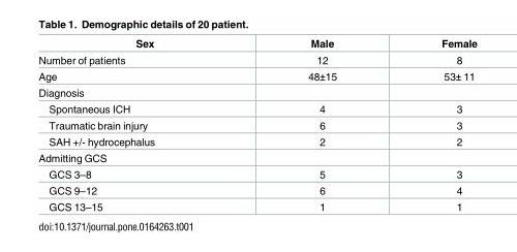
<table><thead><tr><td>Sex</td><td>Male</td><td>Female</td></tr></thead><tbody><tr><td>Number of patients</td><td>12</td><td>8</td></tr><tr><td>Age</td><td>48±15</td><td>53± 11</td></tr><tr><td colspan="3">Diagnosis</td></tr><tr><td>Spontaneous ICH</td><td>4</td><td>3</td></tr><tr><td>Traumatic brain injury</td><td>6</td><td>3</td></tr><tr><td>SAH +/- hydrocephalus</td><td>2</td><td>2</td></tr><tr><td colspan="3">Admitting GCS</td></tr><tr><td>GCS 3–8</td><td>5</td><td>3</td></tr><tr><td>GCS 9–12</td><td>6</td><td>4</td></tr><tr><td>GCS 13–15</td><td>1</td><td>1</td></tr></tbody></table>